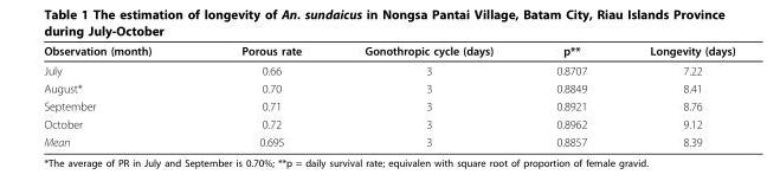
<table><thead><tr><td>Observation (month)</td><td>Porous rate</td><td>Gonothropic cycle (days)</td><td>p**</td><td>Longevity (days)</td></tr></thead><tbody><tr><td>July</td><td>0.66</td><td>3</td><td>0.8707</td><td>7.22</td></tr><tr><td>August*</td><td>0.70</td><td>3</td><td>0.8849</td><td>8.41</td></tr><tr><td>September</td><td>0.71</td><td>3</td><td>0.8921</td><td>8.76</td></tr><tr><td>October</td><td>0.72</td><td>3</td><td>0.8962</td><td>9.12</td></tr><tr><td>Mean</td><td>0.695</td><td>3</td><td>0.8857</td><td>8.39</td></tr></tbody></table>